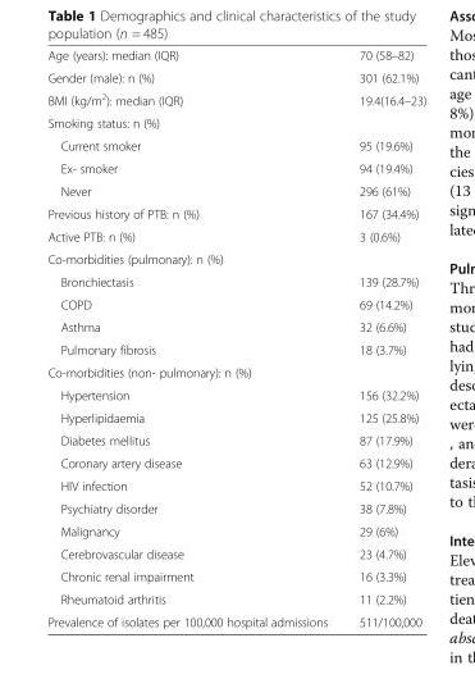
<table><tbody><tr><td>Age (years): median (IQR)</td><td>70 (58–82)</td></tr><tr><td>Gender (male): n (%)</td><td>301 (62.1%)</td></tr><tr><td>BMI (kg/m<sup>2</sup>): median (IQR)</td><td>19.4(16.4–23)</td></tr><tr><td colspan="2">Smoking status: n (%)</td></tr><tr><td>Current smoker</td><td>95 (19.6%)</td></tr><tr><td>Ex- smoker</td><td>94 (19.4%)</td></tr><tr><td>Never</td><td>296 (61%)</td></tr><tr><td>Previous history of PTB: n (%)</td><td>167 (34.4%)</td></tr><tr><td>Active PTB: n (%)</td><td>3 (0.6%)</td></tr><tr><td colspan="2">Co-morbidities (pulmonary): n (%)</td></tr><tr><td>Bronchiectasis</td><td>139 (28.7%)</td></tr><tr><td>COPD</td><td>69 (14.2%)</td></tr><tr><td>Asthma</td><td>32 (6.6%)</td></tr><tr><td>Pulmonary fibrosis</td><td>18 (3.7%)</td></tr><tr><td colspan="2">Co-morbidities (non- pulmonary): n (%)</td></tr><tr><td>Hypertension</td><td>156 (32.2%)</td></tr><tr><td>Hyperlipidaemia</td><td>125 (25.8%)</td></tr><tr><td>Diabetes mellitus</td><td>87 (17.9%)</td></tr><tr><td>Coronary artery disease</td><td>63 (12.9%)</td></tr><tr><td>HIV infection</td><td>52 (10.7%)</td></tr><tr><td>Psychiatry disorder</td><td>38 (7.8%)</td></tr><tr><td>Malignancy</td><td>29 (6%)</td></tr><tr><td>Cerebrovascular disease</td><td>23 (4.7%)</td></tr><tr><td>Chronic renal impairment</td><td>16 (3.3%)</td></tr><tr><td>Rheumatoid arthritis</td><td>11 (2.2%)</td></tr><tr><td>Prevalence of isolates per 100,000 hospital admissions</td><td>511/100,000</td></tr></tbody></table>